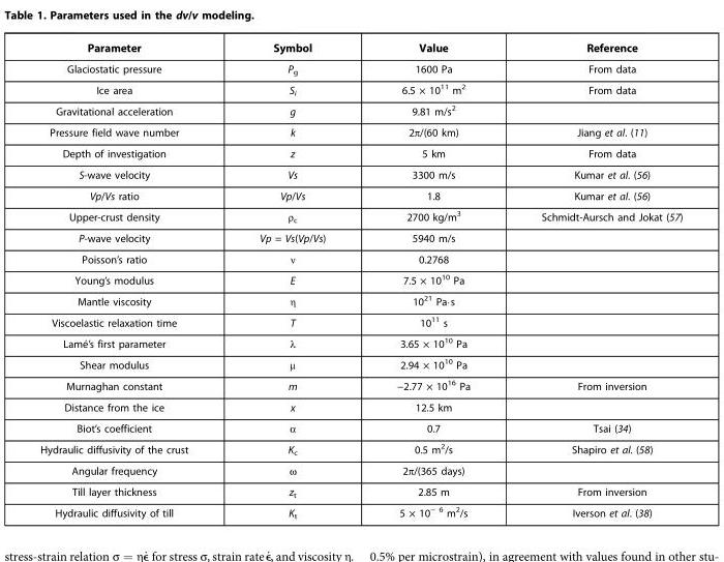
<table><thead><tr><td>Parameter</td><td>Symbol</td><td>Value</td><td>Reference</td></tr></thead><tbody><tr><td>Glaciostatic pressure</td><td>P<sub>g</sub></td><td>1600 Pa</td><td>From data</td></tr><tr><td>Ice area</td><td>S<sub>i</sub></td><td>6.5 × 10<sup>11</sup> m<sup>2</sup></td><td>From data</td></tr><tr><td>Gravitational acceleration</td><td>g</td><td>9.81 m/s<sup>2</sup></td><td></td></tr><tr><td>Pressure field wave number</td><td>k</td><td>2π/(60 km)</td><td>Jiang et al. (11)</td></tr><tr><td>Depth of investigation</td><td>z</td><td>5 km</td><td>From data</td></tr><tr><td>S-wave velocity</td><td>Vs</td><td>3300 m/s</td><td>Kumar et al. (56)</td></tr><tr><td>Vp/Vs ratio</td><td>Vp/Vs</td><td>1.8</td><td>Kumar et al. (56)</td></tr><tr><td>Upper-crust density</td><td>ρ<sub>c</sub></td><td>2700 kg/m<sup>3</sup></td><td>Schmidt-Aursch and Jokat (57)</td></tr><tr><td>P-wave velocity</td><td>Vp = Vs(Vp/Vs)</td><td>5940 m/s</td><td></td></tr><tr><td>Poisson’s ratio</td><td>ν</td><td>0.2768</td><td></td></tr><tr><td>Young’s modulus</td><td>E</td><td>7.5 × 10<sup>10</sup> Pa</td><td></td></tr><tr><td>Mantle viscosity</td><td>η</td><td>10<sup>21</sup> Pa⋅s</td><td></td></tr><tr><td>Viscoelastic relaxation time</td><td>T</td><td>10<sup>11</sup> s</td><td></td></tr><tr><td>Lamé’s first parameter</td><td>λ</td><td>3.65 × 10<sup>10</sup> Pa</td><td></td></tr><tr><td>Shear modulus</td><td>μ</td><td>2.94 × 10<sup>10</sup> Pa</td><td></td></tr><tr><td>Murnaghan constant</td><td>m</td><td>−2.77 × 10<sup>16</sup> Pa</td><td>From inversion</td></tr><tr><td>Distance from the ice</td><td>x</td><td>12.5 km</td><td></td></tr><tr><td>Biot’s coefficient</td><td>α</td><td>0.7</td><td>Tsai (34)</td></tr><tr><td>Hydraulic diffusivity of the crust</td><td>K<sub>c</sub></td><td>0.5 m<sup>2</sup>/s</td><td>Shapiro et al. (58)</td></tr><tr><td>Angular frequency</td><td>ω</td><td>2π/(365 days)</td><td></td></tr><tr><td>Till layer thickness</td><td>z<sub>t</sub></td><td>2.85 m</td><td>From inversion</td></tr><tr><td>Hydraulic diffusivity of till</td><td>K<sub>t</sub></td><td>5 × 10<sup>− 6</sup> m<sup>2</sup>/s</td><td>Iverson et al. (38)</td></tr></tbody></table>